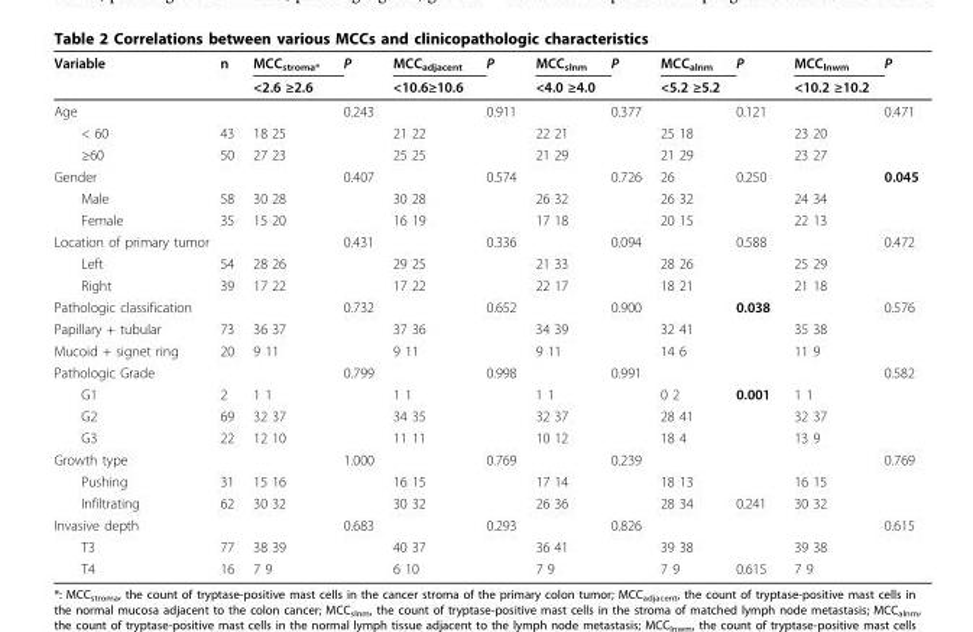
<table><thead><tr><td rowspan="2">Variable</td><td rowspan="2">n</td><td rowspan="2">MCC<sub>stroma*</sub> &lt;2.6 ≥2.6</td><td rowspan="2">P</td><td rowspan="2">MCC<sub>adjacent</sub> &lt;10.6≥10.6</td><td rowspan="2">P</td><td rowspan="2">MCC<sub>slnm</sub> &lt;4.0 ≥4.0</td><td rowspan="2">P</td><td rowspan="2">MCC<sub>alnm</sub> &lt;5.2 ≥5.2</td><td rowspan="2">P</td><td rowspan="2">MCC<sub>lnwm</sub> &lt;10.2 ≥10.2</td><td rowspan="2">P</td></tr><tr></tr></thead><tbody><tr><td>Age</td><td></td><td></td><td>0.243</td><td></td><td>0.911</td><td></td><td>0.377</td><td></td><td>0.121</td><td></td><td>0.471</td></tr><tr><td>&lt; 60</td><td>43</td><td>18 25</td><td></td><td>21 22</td><td></td><td>22 21</td><td></td><td>25 18</td><td></td><td>23 20</td><td></td></tr><tr><td>≥60</td><td>50</td><td>27 23</td><td></td><td>25 25</td><td></td><td>21 29</td><td></td><td>21 29</td><td></td><td>23 27</td><td></td></tr><tr><td>Gender</td><td></td><td></td><td>0.407</td><td></td><td>0.574</td><td></td><td>0.726</td><td>26</td><td>0.250</td><td></td><td>0.045</td></tr><tr><td>Male</td><td>58</td><td>30 28</td><td></td><td>30 28</td><td></td><td>26 32</td><td></td><td>26 32</td><td></td><td>24 34</td><td></td></tr><tr><td>Female</td><td>35</td><td>15 20</td><td></td><td>16 19</td><td></td><td>17 18</td><td></td><td>20 15</td><td></td><td>22 13</td><td></td></tr><tr><td>Location of primary tumor</td><td></td><td></td><td>0.431</td><td></td><td>0.336</td><td></td><td>0.094</td><td></td><td>0.588</td><td></td><td>0.472</td></tr><tr><td>Left</td><td>54</td><td>28 26</td><td></td><td>29 25</td><td></td><td>21 33</td><td></td><td>28 26</td><td></td><td>25 29</td><td></td></tr><tr><td>Right</td><td>39</td><td>17 22</td><td></td><td>17 22</td><td></td><td>22 17</td><td></td><td>18 21</td><td></td><td>21 18</td><td></td></tr><tr><td>Pathologic classification</td><td></td><td></td><td>0.732</td><td></td><td>0.652</td><td></td><td>0.900</td><td></td><td>0.038</td><td></td><td>0.576</td></tr><tr><td>Papillary + tubular</td><td>73</td><td>36 37</td><td></td><td>37 36</td><td></td><td>34 39</td><td></td><td>32 41</td><td></td><td>35 38</td><td></td></tr><tr><td>Mucoid + signet ring</td><td>20</td><td>9 11</td><td></td><td>9 11</td><td></td><td>9 11</td><td></td><td>14 6</td><td></td><td>11 9</td><td></td></tr><tr><td>Pathologic Grade</td><td></td><td></td><td>0.799</td><td></td><td>0.998</td><td></td><td>0.991</td><td></td><td></td><td></td><td>0.582</td></tr><tr><td>G1</td><td>2</td><td>1 1</td><td></td><td>1 1</td><td></td><td>1 1</td><td></td><td>0 2</td><td>0.001</td><td>1 1</td><td></td></tr><tr><td>G2</td><td>69</td><td>32 37</td><td></td><td>34 35</td><td></td><td>32 37</td><td></td><td>28 41</td><td></td><td>32 37</td><td></td></tr><tr><td>G3</td><td>22</td><td>12 10</td><td></td><td>11 11</td><td></td><td>10 12</td><td></td><td>18 4</td><td></td><td>13 9</td><td></td></tr><tr><td>Growth type</td><td></td><td></td><td>1.000</td><td></td><td>0.769</td><td></td><td>0.239</td><td></td><td></td><td></td><td>0.769</td></tr><tr><td>Pushing</td><td>31</td><td>15 16</td><td></td><td>16 15</td><td></td><td>17 14</td><td></td><td>18 13</td><td></td><td>16 15</td><td></td></tr><tr><td>Infiltrating</td><td>62</td><td>30 32</td><td></td><td>30 32</td><td></td><td>26 36</td><td></td><td>28 34</td><td>0.241</td><td>30 32</td><td></td></tr><tr><td>Invasive depth</td><td></td><td></td><td>0.683</td><td></td><td>0.293</td><td></td><td>0.826</td><td></td><td></td><td></td><td>0.615</td></tr><tr><td>T3</td><td>77</td><td>38 39</td><td></td><td>40 37</td><td></td><td>36 41</td><td></td><td>39 38</td><td></td><td>39 38</td><td></td></tr><tr><td>T4</td><td>16</td><td>7 9</td><td></td><td>6 10</td><td></td><td>7 9</td><td></td><td>7 9</td><td>0.615</td><td>7 9</td><td></td></tr></tbody></table>